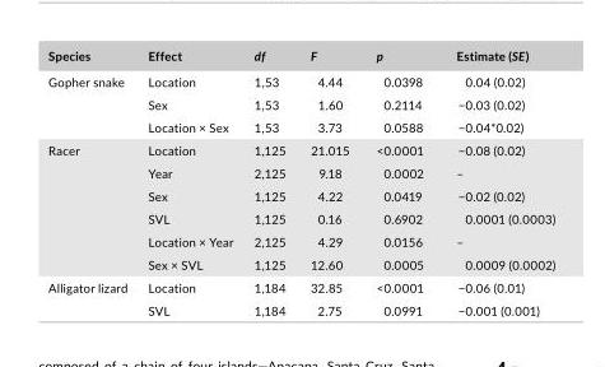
<table><thead><tr><td>Species</td><td>Effect</td><td>df</td><td>F</td><td>p</td><td>Estimate (SE)</td></tr></thead><tbody><tr><td rowspan="3">Gopher snake</td><td>Location</td><td>1,53</td><td>4.44</td><td>0.0398</td><td>0.04 (0.02)</td></tr><tr><td>Sex</td><td>1,53</td><td>1.60</td><td>0.2114</td><td>−0.03 (0.02)</td></tr><tr><td>Location × Sex</td><td>1,53</td><td>3.73</td><td>0.0588</td><td>−0.04*0.02)</td></tr><tr><td rowspan="6">Racer</td><td>Location</td><td>1,125</td><td>21.015</td><td>&lt;0.0001</td><td>−0.08 (0.02)</td></tr><tr><td>Year</td><td>2,125</td><td>9.18</td><td>0.0002</td><td>–</td></tr><tr><td>Sex</td><td>1,125</td><td>4.22</td><td>0.0419</td><td>−0.02 (0.02)</td></tr><tr><td>SVL</td><td>1,125</td><td>0.16</td><td>0.6902</td><td>0.0001 (0.0003)</td></tr><tr><td>Location × Year</td><td>2,125</td><td>4.29</td><td>0.0156</td><td>–</td></tr><tr><td>Sex × SVL</td><td>1,125</td><td>12.60</td><td>0.0005</td><td>0.0009 (0.0002)</td></tr><tr><td rowspan="2">Alligator lizard</td><td>Location</td><td>1,184</td><td>32.85</td><td>&lt;0.0001</td><td>−0.06 (0.01)</td></tr><tr><td>SVL</td><td>1,184</td><td>2.75</td><td>0.0991</td><td>−0.001 (0.001)</td></tr></tbody></table>